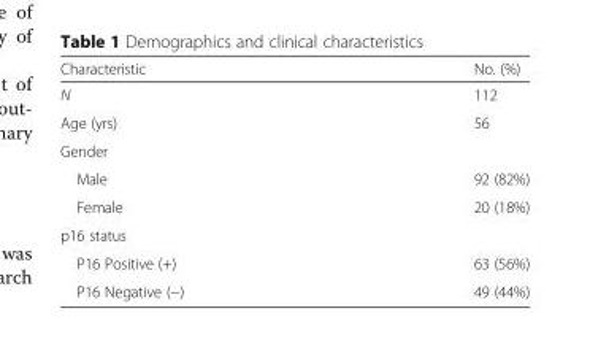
<table><thead><tr><td>Characteristic</td><td>No. (%)</td></tr></thead><tbody><tr><td>N</td><td>112</td></tr><tr><td>Age (yrs)</td><td>56</td></tr><tr><td colspan="2">Gender</td></tr><tr><td>Male</td><td>92 (82%)</td></tr><tr><td>Female</td><td>20 (18%)</td></tr><tr><td colspan="2">p16 status</td></tr><tr><td>P16 Positive (+)</td><td>63 (56%)</td></tr><tr><td>P16 Negative (−)</td><td>49 (44%)</td></tr></tbody></table>